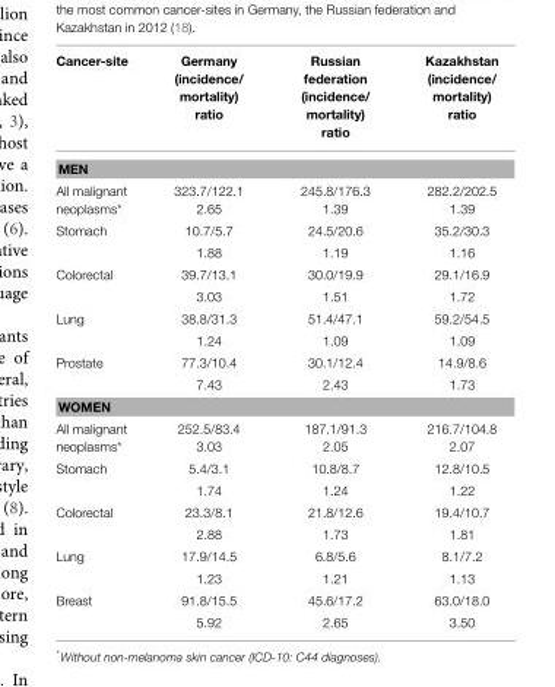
<table><thead><tr><td>Cancer-site</td><td>Germany (incidence/ mortality) ratio</td><td>Russian federation (incidence/ mortality) ratio</td><td>Kazakhstan (incidence/ mortality) ratio</td></tr></thead><tbody><tr><td colspan="4">MEN</td></tr><tr><td>All malignant neoplasms*</td><td>323.7/122.1 2.65</td><td>245.8/176.3 1.39</td><td>282.2/202.5 1.39</td></tr><tr><td rowspan="2">Stomach</td><td>10.7/5.7</td><td>24.5/20.6</td><td>35.2/30.3</td></tr><tr><td>1.88</td><td>1.19</td><td>1.16</td></tr><tr><td rowspan="2">Colorectal</td><td>39.7/13.1</td><td>30.0/19.9</td><td>29.1/16.9</td></tr><tr><td>3.03</td><td>1.51</td><td>1.72</td></tr><tr><td rowspan="2">Lung</td><td>38.8/31.3</td><td>51.4/47.1</td><td>59.2/54.5</td></tr><tr><td>1.24</td><td>1.09</td><td>1.09</td></tr><tr><td rowspan="2">Prostate</td><td>77.3/10.4</td><td>30.1/12.4</td><td>14.9/8.6</td></tr><tr><td>7.43</td><td>2.43</td><td>1.73</td></tr><tr><td colspan="4">WOMEN</td></tr><tr><td>All malignant neoplasms*</td><td>252.5/83.4 3.03</td><td>187.1/91.3 2.05</td><td>216.7/104.8 2.07</td></tr><tr><td rowspan="2">Stomach</td><td>5.4/3.1</td><td>10.8/8.7</td><td>12.8/10.5</td></tr><tr><td>1.74</td><td>1.24</td><td>1.22</td></tr><tr><td rowspan="2">Colorectal</td><td>23.3/8.1</td><td>21.8/12.6</td><td>19.4/10.7</td></tr><tr><td>2.88</td><td>1.73</td><td>1.81</td></tr><tr><td rowspan="2">Lung</td><td>17.9/14.5</td><td>6.8/5.6</td><td>8.1/7.2</td></tr><tr><td>1.23</td><td>1.21</td><td>1.13</td></tr><tr><td rowspan="2">Breast</td><td>91.8/15.5</td><td>45.6/17.2</td><td>63.0/18.0</td></tr><tr><td>5.92</td><td>2.65</td><td>3.50</td></tr></tbody></table>